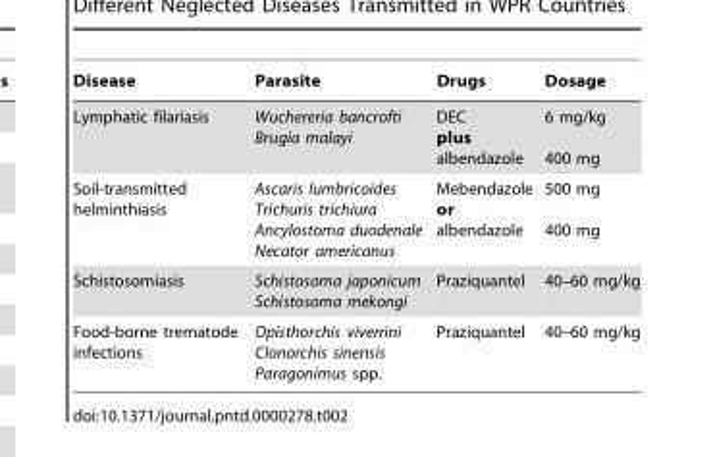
<table><thead><tr><td>Disease</td><td>Parasite</td><td>Drugs</td><td>Dosage</td></tr></thead><tbody><tr><td>Lymphatic filariasis</td><td>Wuchereria bancrofti Brugia malayi</td><td>DEC plus albendazole</td><td>6 mg/kg 400 mg</td></tr><tr><td>Soil-transmitted helminthiasis</td><td>Ascaris lumbricoides Trichuris trichiura Ancylostoma duodenale Necator americanus</td><td>Mebendazole or albendazole</td><td>500 mg 400 mg</td></tr><tr><td>Schistosomiasis</td><td>Schistosoma japonicum Schistosoma mekongi</td><td>Praziquantel</td><td>40–60 mg/kg</td></tr><tr><td>Food-borne trematode infections</td><td>Opisthorchis viverrini Clonorchis sinensis Paragonimus spp.</td><td>Praziquantel</td><td>40–60 mg/kg</td></tr></tbody></table>